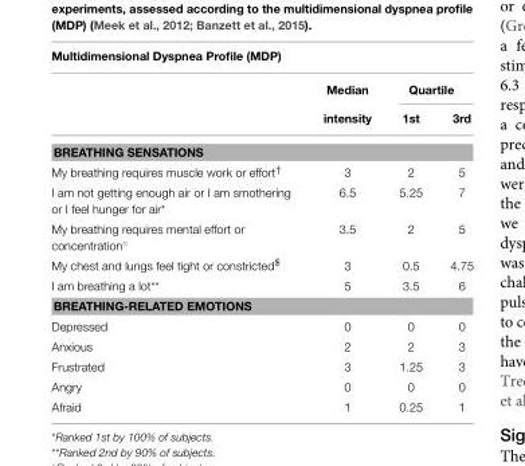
<table><thead><tr><td colspan="4">Multidimensional Dyspnea Profile (MDP)</td></tr><tr><td rowspan="2"></td><td rowspan="2">Median intensity</td><td colspan="2">Quartile</td></tr><tr><td>1st</td><td>3rd</td></tr></thead><tbody><tr><td colspan="4">BREATHING SENSATIONS</td></tr><tr><td>My breathing requires muscle work or effort<sup>†</sup></td><td>3</td><td>2</td><td>5</td></tr><tr><td>I am not getting enough air or I am smothering or I feel hunger for air*</td><td>6.5</td><td>5.25</td><td>7</td></tr><tr><td>My breathing requires mental effort or concentration◦</td><td>3.5</td><td>2</td><td>5</td></tr><tr><td>My chest and lungs feel tight or constricted<sup>$</sup></td><td>3</td><td>0.5</td><td>4.75</td></tr><tr><td>I am breathing a lot**</td><td>5</td><td>3.5</td><td>6</td></tr><tr><td colspan="4">BREATHING-RELATED EMOTIONS</td></tr><tr><td>Depressed</td><td>0</td><td>0</td><td>0</td></tr><tr><td>Anxious</td><td>2</td><td>2</td><td>3</td></tr><tr><td>Frustrated</td><td>3</td><td>1.25</td><td>3</td></tr><tr><td>Angry</td><td>0</td><td>0</td><td>0</td></tr><tr><td>Afraid</td><td>1</td><td>0.25</td><td>1</td></tr></tbody></table>